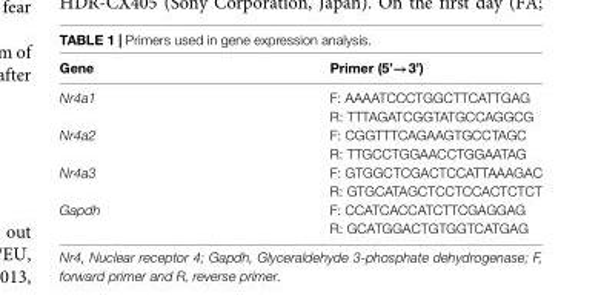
<table><thead><tr><td>Gene</td><td>Primer (5’→3’)</td></tr></thead><tbody><tr><td rowspan="2">Nr4a1</td><td>F: AAAATCCCTGGCTTCATTGAG</td></tr><tr><td>R: TTTAGATCGGTATGCCAGGCG</td></tr><tr><td rowspan="2">Nr4a2</td><td>F: CGGTTTCAGAAGTGCCTAGC</td></tr><tr><td>R: TTGCCTGGAACCTGGAATAG</td></tr><tr><td rowspan="2">Nr4a3</td><td>F: GTGGCTCGACTCCATTAAAGAC</td></tr><tr><td>R: GTGCATAGCTCCTCCACTCTCT</td></tr><tr><td rowspan="2">Gapdh</td><td>F: CCATCACCATCTTCGAGGAG</td></tr><tr><td>R: GCATGGACTGTGGTCATGAG</td></tr></tbody></table>